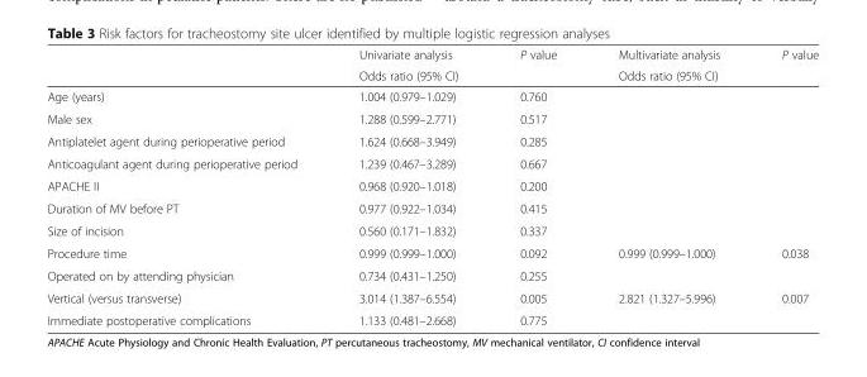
<table><thead><tr><td rowspan="2"></td><td rowspan="2">Univariate analysis Odds ratio (95% CI)</td><td rowspan="2">P value</td><td rowspan="2">Multivariate analysis Odds ratio (95% CI)</td><td rowspan="2">P value</td></tr><tr></tr></thead><tbody><tr><td>Age (years)</td><td>1.004 (0.979–1.029)</td><td>0.760</td><td></td><td></td></tr><tr><td>Male sex</td><td>1.288 (0.599–2.771)</td><td>0.517</td><td></td><td></td></tr><tr><td>Antiplatelet agent during perioperative period</td><td>1.624 (0.668–3.949)</td><td>0.285</td><td></td><td></td></tr><tr><td>Anticoagulant agent during perioperative period</td><td>1.239 (0.467–3.289)</td><td>0.667</td><td></td><td></td></tr><tr><td>APACHE II</td><td>0.968 (0.920–1.018)</td><td>0.200</td><td></td><td></td></tr><tr><td>Duration of MV before PT</td><td>0.977 (0.922–1.034)</td><td>0.415</td><td></td><td></td></tr><tr><td>Size of incision</td><td>0.560 (0.171–1.832)</td><td>0.337</td><td></td><td></td></tr><tr><td>Procedure time</td><td>0.999 (0.999–1.000)</td><td>0.092</td><td>0.999 (0.999–1.000)</td><td>0.038</td></tr><tr><td>Operated on by attending physician</td><td>0.734 (0.431–1.250)</td><td>0.255</td><td></td><td></td></tr><tr><td>Vertical (versus transverse)</td><td>3.014 (1.387–6.554)</td><td>0.005</td><td>2.821 (1.327–5.996)</td><td>0.007</td></tr><tr><td>Immediate postoperative complications</td><td>1.133 (0.481–2.668)</td><td>0.775</td><td></td><td></td></tr></tbody></table>